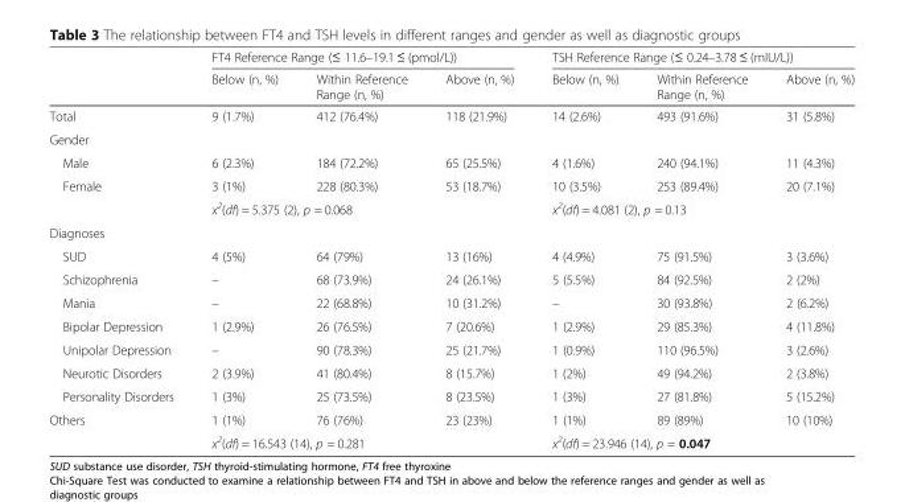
<table><thead><tr><td rowspan="2"></td><td colspan="3">FT4 Reference Range (≤ 11.6–19.1 ≤ (pmol/L))</td><td colspan="3">TSH Reference Range (≤ 0.24–3.78 ≤ (mIU/L))</td></tr><tr><td>Below (n, %)</td><td>Within Reference Range (n, %)</td><td>Above (n, %)</td><td>Below (n, %)</td><td>Within Reference Range (n, %)</td><td>Above (n, %)</td></tr></thead><tbody><tr><td>Total</td><td>9 (1.7%)</td><td>412 (76.4%)</td><td>118 (21.9%)</td><td>14 (2.6%)</td><td>493 (91.6%)</td><td>31 (5.8%)</td></tr><tr><td colspan="7">Gender</td></tr><tr><td>Male</td><td>6 (2.3%)</td><td>184 (72.2%)</td><td>65 (25.5%)</td><td>4 (1.6%)</td><td>240 (94.1%)</td><td>11 (4.3%)</td></tr><tr><td rowspan="2">Female</td><td>3 (1%)</td><td>228 (80.3%)</td><td>53 (18.7%)</td><td>10 (3.5%)</td><td>253 (89.4%)</td><td>20 (7.1%)</td></tr><tr><td colspan="3">x<sup>2</sup>(df) = 5.375 (2), p = 0.068</td><td colspan="3">x<sup>2</sup>(df) = 4.081 (2), p = 0.13</td></tr><tr><td colspan="7">Diagnoses</td></tr><tr><td>SUD</td><td>4 (5%)</td><td>64 (79%)</td><td>13 (16%)</td><td>4 (4.9%)</td><td>75 (91.5%)</td><td>3 (3.6%)</td></tr><tr><td>Schizophrenia</td><td>–</td><td>68 (73.9%)</td><td>24 (26.1%)</td><td>5 (5.5%)</td><td>84 (92.5%)</td><td>2 (2%)</td></tr><tr><td>Mania</td><td>–</td><td>22 (68.8%)</td><td>10 (31.2%)</td><td>–</td><td>30 (93.8%)</td><td>2 (6.2%)</td></tr><tr><td>Bipolar Depression</td><td>1 (2.9%)</td><td>26 (76.5%)</td><td>7 (20.6%)</td><td>1 (2.9%)</td><td>29 (85.3%)</td><td>4 (11.8%)</td></tr><tr><td>Unipolar Depression</td><td>–</td><td>90 (78.3%)</td><td>25 (21.7%)</td><td>1 (0.9%)</td><td>110 (96.5%)</td><td>3 (2.6%)</td></tr><tr><td>Neurotic Disorders</td><td>2 (3.9%)</td><td>41 (80.4%)</td><td>8 (15.7%)</td><td>1 (2%)</td><td>49 (94.2%)</td><td>2 (3.8%)</td></tr><tr><td>Personality Disorders</td><td>1 (3%)</td><td>25 (73.5%)</td><td>8 (23.5%)</td><td>1 (3%)</td><td>27 (81.8%)</td><td>5 (15.2%)</td></tr><tr><td rowspan="2">Others</td><td>1 (1%)</td><td>76 (76%)</td><td>23 (23%)</td><td>1 (1%)</td><td>89 (89%)</td><td>10 (10%)</td></tr><tr><td colspan="3">x<sup>2</sup>(df) = 16.543 (14), p = 0.281</td><td colspan="3">x<sup>2</sup>(df) = 23.946 (14), p = 0.047</td></tr></tbody></table>